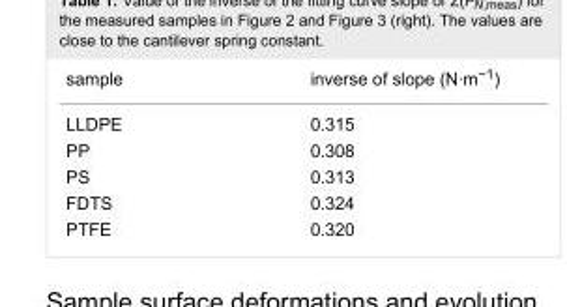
<table><tbody><tr><td>sample</td><td>inverse of slope (N·m<sup>−1</sup>)</td></tr><tr><td>LLDPE</td><td>0.315</td></tr><tr><td>PP</td><td>0.308</td></tr><tr><td>PS</td><td>0.313</td></tr><tr><td>FDTS</td><td>0.324</td></tr><tr><td>PTFE</td><td>0.320</td></tr></tbody></table>